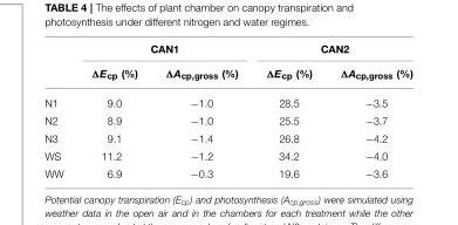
<table><thead><tr><td rowspan="2"></td><td colspan="2">CAN1</td><td colspan="2">CAN2</td></tr><tr><td>ΔE<sub>cp</sub> (%)</td><td>ΔA<sub>cp,gross</sub> (%)</td><td>ΔE<sub>cp</sub> (%)</td><td>ΔA<sub>cp,gross</sub> (%)</td></tr></thead><tbody><tr><td>N1</td><td>9.0</td><td>−1.0</td><td>28.5</td><td>−3.5</td></tr><tr><td>N2</td><td>8.9</td><td>−1.0</td><td>25.5</td><td>−3.7</td></tr><tr><td>N3</td><td>9.1</td><td>−1.4</td><td>26.8</td><td>−4.2</td></tr><tr><td>WS</td><td>11.2</td><td>−1.2</td><td>34.2</td><td>−4.0</td></tr><tr><td>WW</td><td>6.9</td><td>−0.3</td><td>19.6</td><td>−3.6</td></tr></tbody></table>